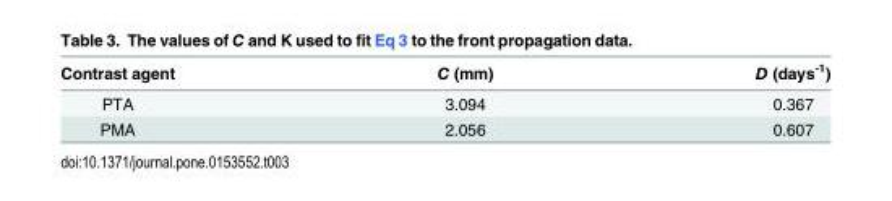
<table><thead><tr><td>Contrast agent</td><td>C (mm)</td><td>D (days<sup>-1</sup>)</td></tr></thead><tbody><tr><td>PTA</td><td>3.094</td><td>0.367</td></tr><tr><td>PMA</td><td>2.056</td><td>0.607</td></tr></tbody></table>